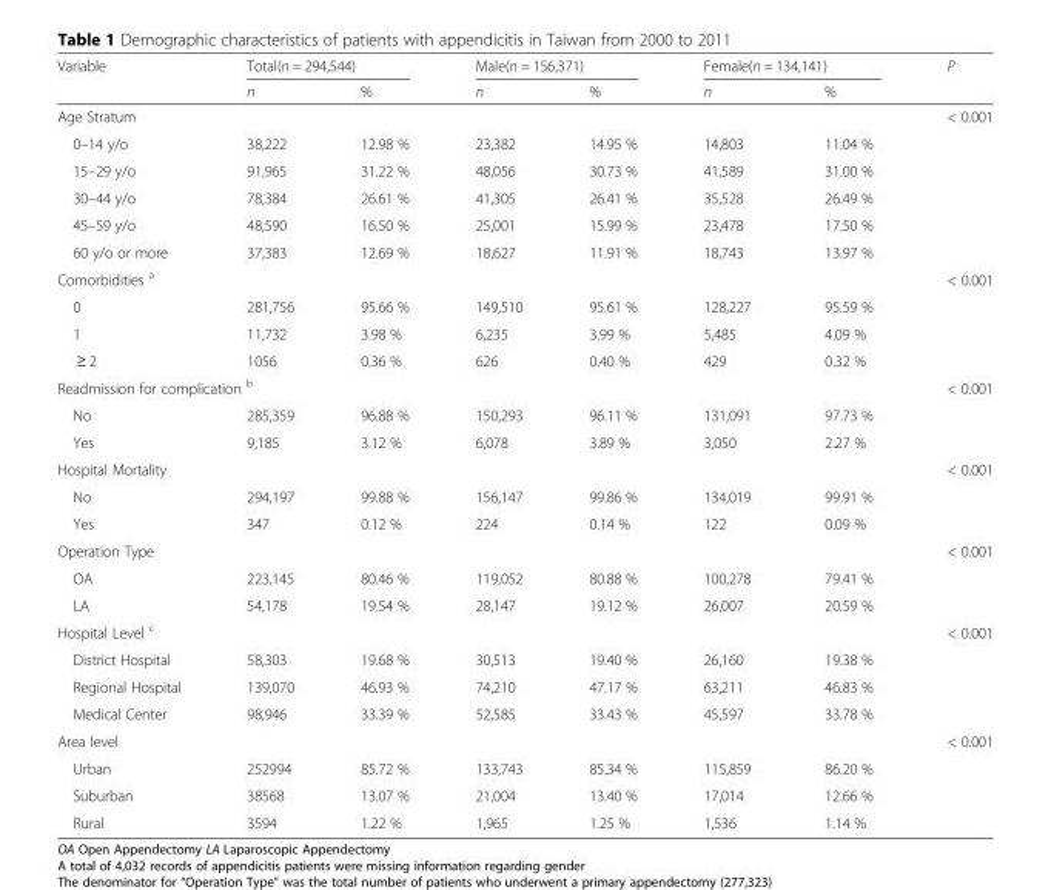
<table><thead><tr><td rowspan="2">Variable</td><td colspan="2">Total(n = 294,544)</td><td colspan="2">Male(n = 156,371)</td><td colspan="2">Female(n = 134,141)</td><td rowspan="2">P</td></tr><tr><td>n</td><td>%</td><td>n</td><td>%</td><td>n</td><td>%</td></tr></thead><tbody><tr><td colspan="7">Age Stratum</td><td>&lt; 0.001</td></tr><tr><td>0–14 y/o</td><td>38,222</td><td>12.98 %</td><td>23,382</td><td>14.95 %</td><td>14,803</td><td>11.04 %</td><td rowspan="5"></td></tr><tr><td>15–29 y/o</td><td>91,965</td><td>31.22 %</td><td>48,056</td><td>30.73 %</td><td>41,589</td><td>31.00 %</td></tr><tr><td>30–44 y/o</td><td>78,384</td><td>26.61 %</td><td>41,305</td><td>26.41 %</td><td>35,528</td><td>26.49 %</td></tr><tr><td>45–59 y/o</td><td>48,590</td><td>16.50 %</td><td>25,001</td><td>15.99 %</td><td>23,478</td><td>17.50 %</td></tr><tr><td>60 y/o or more</td><td>37,383</td><td>12.69 %</td><td>18,627</td><td>11.91 %</td><td>18,743</td><td>13.97 %</td></tr><tr><td colspan="7">Comorbidities <sup>a</sup></td><td>&lt; 0.001</td></tr><tr><td>0</td><td>281,756</td><td>95.66 %</td><td>149,510</td><td>95.61 %</td><td>128,227</td><td>95.59 %</td><td rowspan="3"></td></tr><tr><td>1</td><td>11,732</td><td>3.98 %</td><td>6,235</td><td>3.99 %</td><td>5,485</td><td>4.09 %</td></tr><tr><td>≥ 2</td><td>1056</td><td>0.36 %</td><td>626</td><td>0.40 %</td><td>429</td><td>0.32 %</td></tr><tr><td colspan="7">Readmission for complication <sup>b</sup></td><td>&lt; 0.001</td></tr><tr><td>No</td><td>285,359</td><td>96.88 %</td><td>150,293</td><td>96.11 %</td><td>131,091</td><td>97.73 %</td><td rowspan="2"></td></tr><tr><td>Yes</td><td>9,185</td><td>3.12 %</td><td>6,078</td><td>3.89 %</td><td>3,050</td><td>2.27 %</td></tr><tr><td colspan="7">Hospital Mortality</td><td>&lt; 0.001</td></tr><tr><td>No</td><td>294,197</td><td>99.88 %</td><td>156,147</td><td>99.86 %</td><td>134,019</td><td>99.91 %</td><td rowspan="2"></td></tr><tr><td>Yes</td><td>347</td><td>0.12 %</td><td>224</td><td>0.14 %</td><td>122</td><td>0.09 %</td></tr><tr><td colspan="7">Operation Type</td><td>&lt; 0.001</td></tr><tr><td>OA</td><td>223,145</td><td>80.46 %</td><td>119,052</td><td>80.88 %</td><td>100,278</td><td>79.41 %</td><td rowspan="2"></td></tr><tr><td>LA</td><td>54,178</td><td>19.54 %</td><td>28,147</td><td>19.12 %</td><td>26,007</td><td>20.59 %</td></tr><tr><td colspan="7">Hospital Level <sup>c</sup></td><td>&lt; 0.001</td></tr><tr><td>District Hospital</td><td>58,303</td><td>19.68 %</td><td>30,513</td><td>19.40 %</td><td>26,160</td><td>19.38 %</td><td rowspan="3"></td></tr><tr><td>Regional Hospital</td><td>139,070</td><td>46.93 %</td><td>74,210</td><td>47.17 %</td><td>63,211</td><td>46.83 %</td></tr><tr><td>Medical Center</td><td>98,946</td><td>33.39 %</td><td>52,585</td><td>33.43 %</td><td>45,597</td><td>33.78 %</td></tr><tr><td colspan="7">Area level</td><td>&lt; 0.001</td></tr><tr><td>Urban</td><td>252994</td><td>85.72 %</td><td>133,743</td><td>85.34 %</td><td>115,859</td><td>86.20 %</td><td rowspan="3"></td></tr><tr><td>Suburban</td><td>38568</td><td>13.07 %</td><td>21,004</td><td>13.40 %</td><td>17,014</td><td>12.66 %</td></tr><tr><td>Rural</td><td>3594</td><td>1.22 %</td><td>1,965</td><td>1.25 %</td><td>1,536</td><td>1.14 %</td></tr></tbody></table>